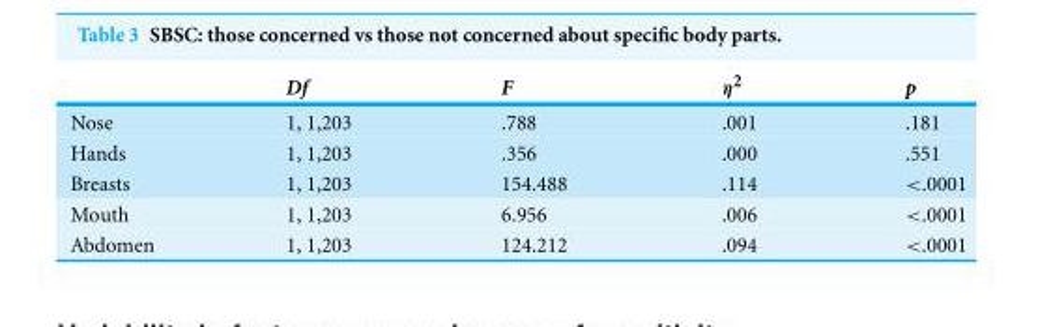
<table><thead><tr><td></td><td>Df</td><td>F</td><td>η<sup>2</sup></td><td>p</td></tr></thead><tbody><tr><td>Nose</td><td>1, 1,203</td><td>.788</td><td>.001</td><td>.181</td></tr><tr><td>Hands</td><td>1, 1,203</td><td>.356</td><td>.000</td><td>.551</td></tr><tr><td>Breasts</td><td>1, 1,203</td><td>154.488</td><td>.114</td><td>&lt;.0001</td></tr><tr><td>Mouth</td><td>1, 1,203</td><td>6.956</td><td>.006</td><td>&lt;.0001</td></tr><tr><td>Abdomen</td><td>1, 1,203</td><td>124.212</td><td>.094</td><td>&lt;.0001</td></tr></tbody></table>